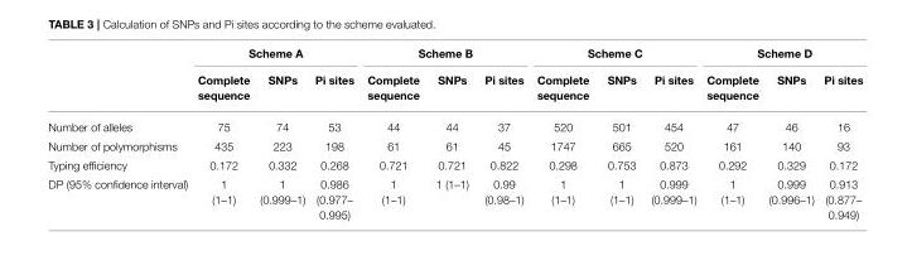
<table><thead><tr><td rowspan="2"></td><td colspan="3">Scheme A</td><td colspan="3">Scheme B</td><td colspan="3">Scheme C</td><td colspan="3">Scheme D</td></tr><tr><td>Complete sequence</td><td>SNPs</td><td>Pi sites</td><td>Complete sequence</td><td>SNPs</td><td>Pi sites</td><td>Complete sequence</td><td>SNPs</td><td>Pi sites</td><td>Complete sequence</td><td>SNPs</td><td>Pi sites</td></tr></thead><tbody><tr><td>Number of alleles</td><td>75</td><td>74</td><td>53</td><td>44</td><td>44</td><td>37</td><td>520</td><td>501</td><td>454</td><td>47</td><td>46</td><td>16</td></tr><tr><td>Number of polymorphisms</td><td>435</td><td>223</td><td>198</td><td>61</td><td>61</td><td>45</td><td>1747</td><td>665</td><td>520</td><td>161</td><td>140</td><td>93</td></tr><tr><td>Typing efficiency</td><td>0.172</td><td>0.332</td><td>0.268</td><td>0.721</td><td>0.721</td><td>0.822</td><td>0.298</td><td>0.753</td><td>0.873</td><td>0.292</td><td>0.329</td><td>0.172</td></tr><tr><td>DP (95% confidence interval)</td><td>1 (1–1)</td><td>1 (0.999–1)</td><td>0.986 (0.977– 0.995)</td><td>1 (1–1)</td><td>1 (1–1)</td><td>0.99 (0.98–1)</td><td>1 (1–1)</td><td>1 (1–1)</td><td>0.999 (0.999–1)</td><td>1 (1–1)</td><td>0.999 (0.996–1)</td><td>0.913 (0.877– 0.949)</td></tr></tbody></table>